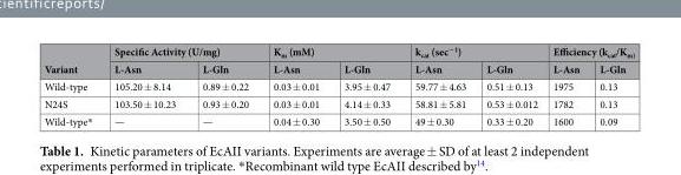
<table><thead><tr><td rowspan="2">Variant</td><td colspan="2">Specific Activity (U/mg)</td><td colspan="2">K<sub>m</sub> (mM)</td><td colspan="2">k<sub>cat</sub> (sec<sup>−1</sup>)</td><td colspan="2">Efficiency (k<sub>cat</sub>/K<sub>m)</sub></td></tr><tr><td>L-Asn</td><td>L-Gln</td><td>L-Asn</td><td>L-Gln</td><td>L-Asn</td><td>L-Gln</td><td>L-Asn</td><td>L-Gln</td></tr></thead><tbody><tr><td>Wild-type</td><td>105.20 ± 8.14</td><td>0.89 ± 0.22</td><td>0.03 ± 0.01</td><td>3.95 ± 0.47</td><td>59.77 ± 4.63</td><td>0.51 ± 0.13</td><td>1975</td><td>0.13</td></tr><tr><td>N24S</td><td>103.50 ± 10.23</td><td>0.93 ± 0.20</td><td>0.03 ± 0.01</td><td>4.14 ± 0.33</td><td>58.81 ± 5.81</td><td>0.53 ± 0.012</td><td>1782</td><td>0.13</td></tr><tr><td>Wild-type*</td><td>—</td><td>—</td><td>0.04 ± 0.30</td><td>3.50 ± 0.50</td><td>49 ± 0.30</td><td>0.33 ± 0.20</td><td>1600</td><td>0.09</td></tr></tbody></table>